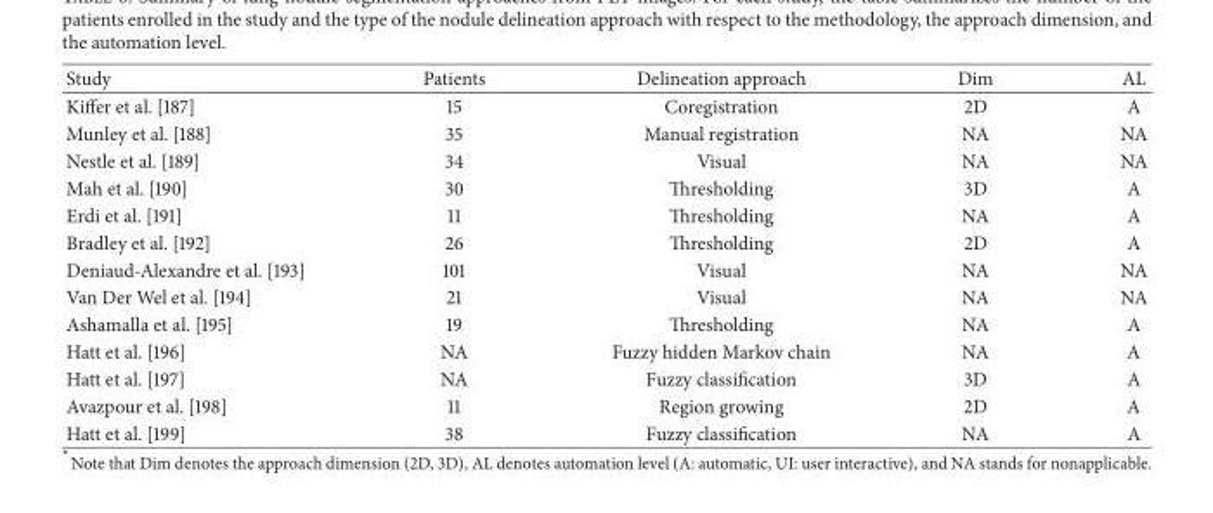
<table><thead><tr><td>Study</td><td>Patients</td><td>Delineation approach</td><td>Dim</td><td>AL</td></tr></thead><tbody><tr><td>Kiffer et al. [187]</td><td>15</td><td>Coregistration</td><td>2D</td><td>A</td></tr><tr><td>Munley et al. [188]</td><td>35</td><td>Manual registration</td><td>NA</td><td>NA</td></tr><tr><td>Nestle et al. [189]</td><td>34</td><td>Visual</td><td>NA</td><td>NA</td></tr><tr><td>Mah et al. [190]</td><td>30</td><td>Thresholding</td><td>3D</td><td>A</td></tr><tr><td>Erdi et al. [191]</td><td>11</td><td>Thresholding</td><td>NA</td><td>A</td></tr><tr><td>Bradley et al. [192]</td><td>26</td><td>Thresholding</td><td>2D</td><td>A</td></tr><tr><td>Deniaud-Alexandre et al. [193]</td><td>101</td><td>Visual</td><td>NA</td><td>NA</td></tr><tr><td>Van Der Wel et al. [194]</td><td>21</td><td>Visual</td><td>NA</td><td>NA</td></tr><tr><td>Ashamalla et al. [195]</td><td>19</td><td>Thresholding</td><td>NA</td><td>A</td></tr><tr><td>Hatt et al. [196]</td><td>NA</td><td>Fuzzy hidden Markov chain</td><td>NA</td><td>A</td></tr><tr><td>Hatt et al. [197]</td><td>NA</td><td>Fuzzy classification</td><td>3D</td><td>A</td></tr><tr><td>Avazpour et al. [198]</td><td>11</td><td>Region growing</td><td>2D</td><td>A</td></tr><tr><td>Hatt et al. [199]</td><td>38</td><td>Fuzzy classification</td><td>NA</td><td>A</td></tr></tbody></table>